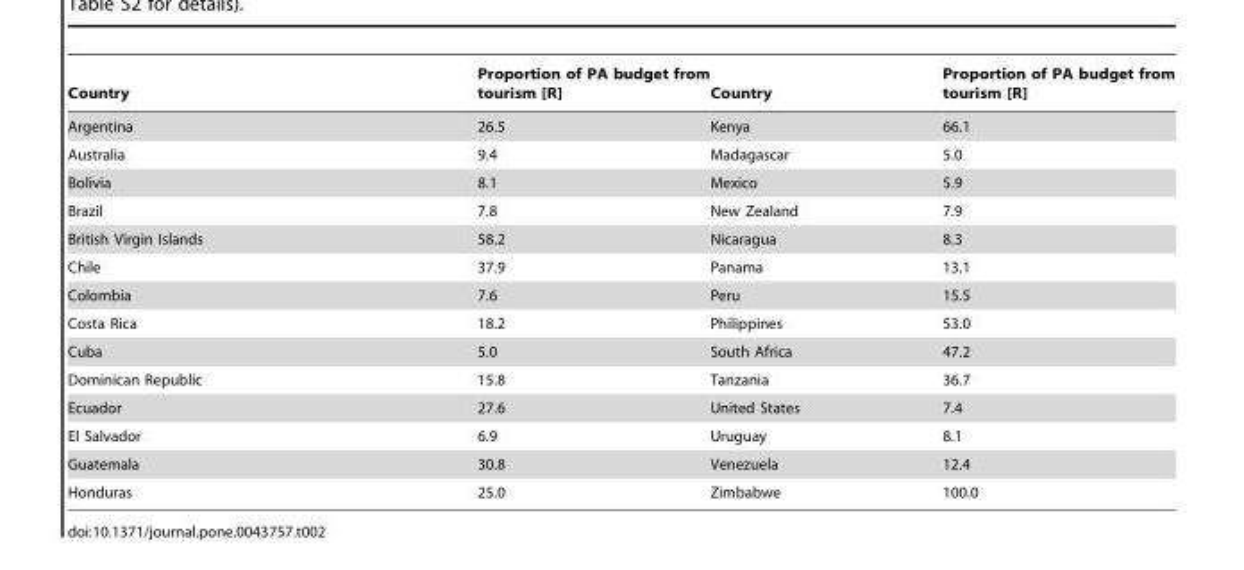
<table><thead><tr><td>Country</td><td>Proportion of PA budget from tourism [R]</td><td>Country</td><td>Proportion of PA budget from tourism [R]</td></tr></thead><tbody><tr><td>Argentina</td><td>26.5</td><td>Kenya</td><td>66.1</td></tr><tr><td>Australia</td><td>9.4</td><td>Madagascar</td><td>5.0</td></tr><tr><td>Bolivia</td><td>8.1</td><td>Mexico</td><td>5.9</td></tr><tr><td>Brazil</td><td>7.8</td><td>New Zealand</td><td>7.9</td></tr><tr><td>British Virgin Islands</td><td>58.2</td><td>Nicaragua</td><td>8.3</td></tr><tr><td>Chile</td><td>37.9</td><td>Panama</td><td>13.1</td></tr><tr><td>Colombia</td><td>7.6</td><td>Peru</td><td>15.5</td></tr><tr><td>Costa Rica</td><td>18.2</td><td>Philippines</td><td>53.0</td></tr><tr><td>Cuba</td><td>5.0</td><td>South Africa</td><td>47.2</td></tr><tr><td>Dominican Republic</td><td>15.8</td><td>Tanzania</td><td>36.7</td></tr><tr><td>Ecuador</td><td>27.6</td><td>United States</td><td>7.4</td></tr><tr><td>El Salvador</td><td>6.9</td><td>Uruguay</td><td>8.1</td></tr><tr><td>Guatemala</td><td>30.8</td><td>Venezuela</td><td>12.4</td></tr><tr><td>Honduras</td><td>25.0</td><td>Zimbabwe</td><td>100.0</td></tr></tbody></table>